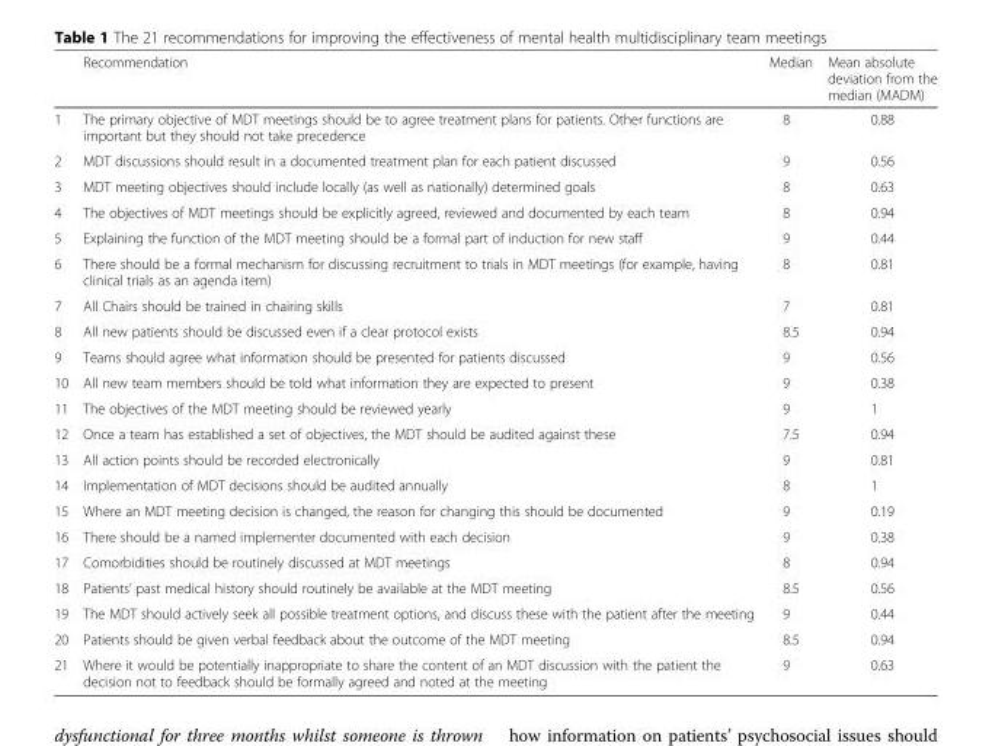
<table><thead><tr><td></td><td>Recommendation</td><td>Median</td><td>Mean absolute deviation from the median (MADM)</td></tr></thead><tbody><tr><td>1</td><td>The primary objective of MDT meetings should be to agree treatment plans for patients. Other functions are important but they should not take precedence</td><td>8</td><td>0.88</td></tr><tr><td>2</td><td>MDT discussions should result in a documented treatment plan for each patient discussed</td><td>9</td><td>0.56</td></tr><tr><td>3</td><td>MDT meeting objectives should include locally (as well as nationally) determined goals</td><td>8</td><td>0.63</td></tr><tr><td>4</td><td>The objectives of MDT meetings should be explicitly agreed, reviewed and documented by each team</td><td>8</td><td>0.94</td></tr><tr><td>5</td><td>Explaining the function of the MDT meeting should be a formal part of induction for new staff</td><td>9</td><td>0.44</td></tr><tr><td>6</td><td>There should be a formal mechanism for discussing recruitment to trials in MDT meetings (for example, having clinical trials as an agenda item)</td><td>8</td><td>0.81</td></tr><tr><td>7</td><td>All Chairs should be trained in chairing skills</td><td>7</td><td>0.81</td></tr><tr><td>8</td><td>All new patients should be discussed even if a clear protocol exists</td><td>8.5</td><td>0.94</td></tr><tr><td>9</td><td>Teams should agree what information should be presented for patients discussed</td><td>9</td><td>0.56</td></tr><tr><td>10</td><td>All new team members should be told what information they are expected to present</td><td>9</td><td>0.38</td></tr><tr><td>11</td><td>The objectives of the MDT meeting should be reviewed yearly</td><td>9</td><td>1</td></tr><tr><td>12</td><td>Once a team has established a set of objectives, the MDT should be audited against these</td><td>7.5</td><td>0.94</td></tr><tr><td>13</td><td>All action points should be recorded electronically</td><td>9</td><td>0.81</td></tr><tr><td>14</td><td>Implementation of MDT decisions should be audited annually</td><td>8</td><td>1</td></tr><tr><td>15</td><td>Where an MDT meeting decision is changed, the reason for changing this should be documented</td><td>9</td><td>0.19</td></tr><tr><td>16</td><td>There should be a named implementer documented with each decision</td><td>9</td><td>0.38</td></tr><tr><td>17</td><td>Comorbidities should be routinely discussed at MDT meetings</td><td>8</td><td>0.94</td></tr><tr><td>18</td><td>Patients’ past medical history should routinely be available at the MDT meeting</td><td>8.5</td><td>0.56</td></tr><tr><td>19</td><td>The MDT should actively seek all possible treatment options, and discuss these with the patient after the meeting</td><td>9</td><td>0.44</td></tr><tr><td>20</td><td>Patients should be given verbal feedback about the outcome of the MDT meeting</td><td>8.5</td><td>0.94</td></tr><tr><td>21</td><td>Where it would be potentially inappropriate to share the content of an MDT discussion with the patient the decision not to feedback should be formally agreed and noted at the meeting</td><td>9</td><td>0.63</td></tr></tbody></table>